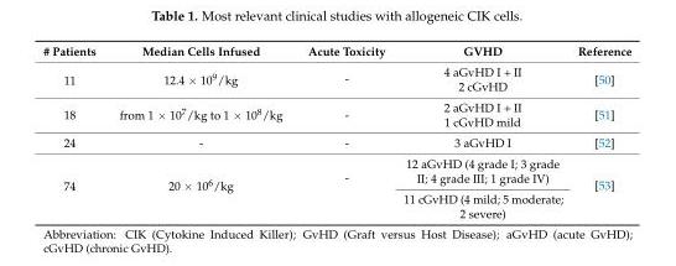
<table><thead><tr><td># Patients</td><td>Median Cells Infused</td><td>Acute Toxicity</td><td>GVHD</td><td>Reference</td></tr></thead><tbody><tr><td rowspan="2">11</td><td rowspan="2">12.4 × 10<sup>9</sup>/kg</td><td rowspan="2">-</td><td>4 aGvHD I + II</td><td rowspan="2">[50]</td></tr><tr><td>2 cGvHD</td></tr><tr><td>18</td><td>from 1 × 10<sup>7</sup>/kg to 1 × 10<sup>8</sup>/kg</td><td>-</td><td>2 aGvHD I + II 1 cGvHD mild</td><td>[51]</td></tr><tr><td>24</td><td>-</td><td>-</td><td>3 aGvHD I</td><td>[52]</td></tr><tr><td rowspan="2">74</td><td rowspan="2">20 × 10<sup>6</sup>/kg</td><td rowspan="2">-</td><td>12 aGvHD (4 grade I; 3 grade II; 4 grade III; 1 grade IV)</td><td rowspan="2">[53]</td></tr><tr><td>11 cGvHD (4 mild; 5 moderate; 2 severe)</td></tr></tbody></table>